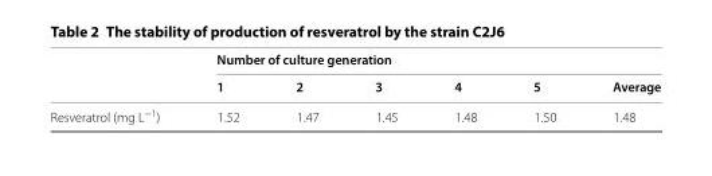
<table><thead><tr><td rowspan="2"></td><td colspan="6">Number of culture generation</td></tr><tr><td>1</td><td>2</td><td>3</td><td>4</td><td>5</td><td>Average</td></tr></thead><tbody><tr><td>Resveratrol (mg L<sup>−1</sup>)</td><td>1.52</td><td>1.47</td><td>1.45</td><td>1.48</td><td>1.50</td><td>1.48</td></tr></tbody></table>